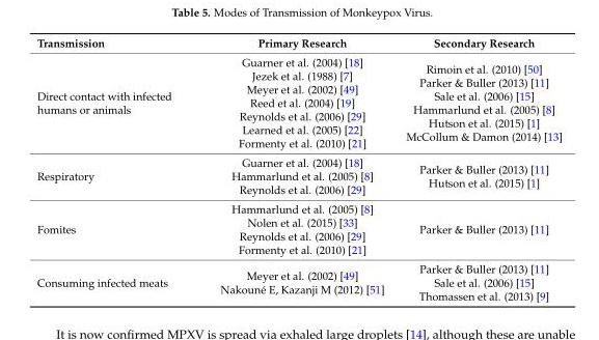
<table><thead><tr><td>Transmission</td><td>Primary Research</td><td>Secondary Research</td></tr></thead><tbody><tr><td>Direct contact with infected humans or animals</td><td>Guarner et al. (2004) [18] Jezek et al. (1988) [7] Meyer et al. (2002) [49] Reed et al. (2004) [19] Reynolds et al. (2006) [29] Learned et al. (2005) [22] Formenty et al. (2010) [21]</td><td>Rimoin et al. (2010) [50] Parker &amp; Buller (2013) [11] Sale et al. (2006) [15] Hammarlund et al. (2005) [8] Hutson et al. (2015) [1] McCollum &amp; Damon (2014) [13]</td></tr><tr><td>Respiratory</td><td>Guarner et al. (2004) [18] Hammarlund et al. (2005) [8] Reynolds et al. (2006) [29]</td><td>Parker &amp; Buller (2013) [11] Hutson et al. (2015) [1]</td></tr><tr><td>Fomites</td><td>Hammarlund et al. (2005) [8] Nolen et al. (2015) [33] Reynolds et al. (2006) [29] Formenty et al. (2010) [21]</td><td>Parker &amp; Buller (2013) [11]</td></tr><tr><td>Consuming infected meats</td><td>Meyer et al. (2002) [49] Nakouné E, Kazanji M (2012) [51]</td><td>Parker &amp; Buller (2013) [11] Sale et al. (2006) [15] Thomassen et al. (2013) [9]</td></tr></tbody></table>